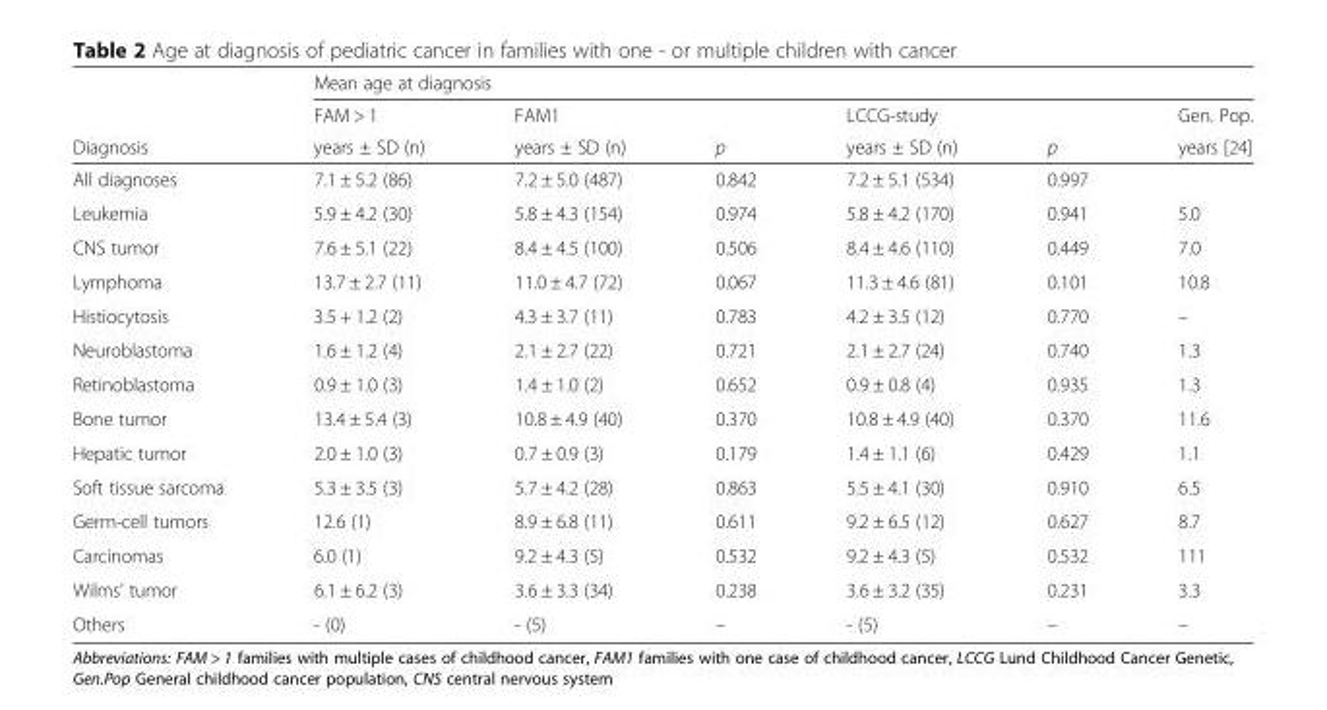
<table><thead><tr><td rowspan="3">Diagnosis</td><td colspan="6">Mean age at diagnosis</td></tr><tr><td rowspan="2">FAM &gt; 1 years ± SD (n)</td><td rowspan="2">FAM1 years ± SD (n)</td><td rowspan="2">p</td><td rowspan="2">LCCG-study years ± SD (n)</td><td rowspan="2">p</td><td rowspan="2">Gen. Pop. years [24]</td></tr><tr></tr></thead><tbody><tr><td>All diagnoses</td><td>7.1 ± 5.2 (86)</td><td>7.2 ± 5.0 (487)</td><td>0.842</td><td>7.2 ± 5.1 (534)</td><td>0.997</td><td></td></tr><tr><td>Leukemia</td><td>5.9 ± 4.2 (30)</td><td>5.8 ± 4.3 (154)</td><td>0.974</td><td>5.8 ± 4.2 (170)</td><td>0.941</td><td>5.0</td></tr><tr><td>CNS tumor</td><td>7.6 ± 5.1 (22)</td><td>8.4 ± 4.5 (100)</td><td>0.506</td><td>8.4 ± 4.6 (110)</td><td>0.449</td><td>7.0</td></tr><tr><td>Lymphoma</td><td>13.7 ± 2.7 (11)</td><td>11.0 ± 4.7 (72)</td><td>0.067</td><td>11.3 ± 4.6 (81)</td><td>0.101</td><td>10.8</td></tr><tr><td>Histiocytosis</td><td>3.5 + 1.2 (2)</td><td>4.3 ± 3.7 (11)</td><td>0.783</td><td>4.2 ± 3.5 (12)</td><td>0.770</td><td>–</td></tr><tr><td>Neuroblastoma</td><td>1.6 ± 1.2 (4)</td><td>2.1 ± 2.7 (22)</td><td>0.721</td><td>2.1 ± 2.7 (24)</td><td>0.740</td><td>1.3</td></tr><tr><td>Retinoblastoma</td><td>0.9 ± 1.0 (3)</td><td>1.4 ± 1.0 (2)</td><td>0.652</td><td>0.9 ± 0.8 (4)</td><td>0.935</td><td>1.3</td></tr><tr><td>Bone tumor</td><td>13.4 ± 5.4 (3)</td><td>10.8 ± 4.9 (40)</td><td>0.370</td><td>10.8 ± 4.9 (40)</td><td>0.370</td><td>11.6</td></tr><tr><td>Hepatic tumor</td><td>2.0 ± 1.0 (3)</td><td>0.7 ± 0.9 (3)</td><td>0.179</td><td>1.4 ± 1.1 (6)</td><td>0.429</td><td>1.1</td></tr><tr><td>Soft tissue sarcoma</td><td>5.3 ± 3.5 (3)</td><td>5.7 ± 4.2 (28)</td><td>0.863</td><td>5.5 ± 4.1 (30)</td><td>0.910</td><td>6.5</td></tr><tr><td>Germ-cell tumors</td><td>12.6 (1)</td><td>8.9 ± 6.8 (11)</td><td>0.611</td><td>9.2 ± 6.5 (12)</td><td>0.627</td><td>8.7</td></tr><tr><td>Carcinomas</td><td>6.0 (1)</td><td>9.2 ± 4.3 (5)</td><td>0.532</td><td>9.2 ± 4.3 (5)</td><td>0.532</td><td>111</td></tr><tr><td>Wilms’ tumor</td><td>6.1 ± 6.2 (3)</td><td>3.6 ± 3.3 (34)</td><td>0.238</td><td>3.6 ± 3.2 (35)</td><td>0.231</td><td>3.3</td></tr><tr><td>Others</td><td>- (0)</td><td>- (5)</td><td>–</td><td>- (5)</td><td>–</td><td>–</td></tr></tbody></table>